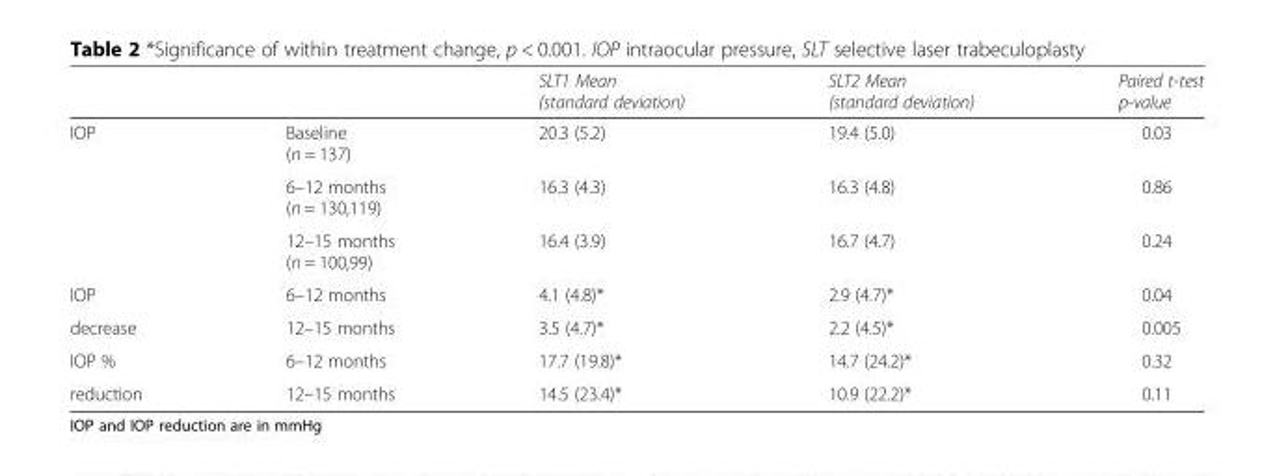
<table><thead><tr><td></td><td></td><td>SLT1 Mean (standard deviation)</td><td>SLT2 Mean (standard deviation)</td><td>Paired t-test p-value</td></tr></thead><tbody><tr><td rowspan="3">IOP</td><td>Baseline (n = 137)</td><td>20.3 (5.2)</td><td>19.4 (5.0)</td><td>0.03</td></tr><tr><td>6–12 months (n = 130,119)</td><td>16.3 (4.3)</td><td>16.3 (4.8)</td><td>0.86</td></tr><tr><td>12–15 months (n = 100,99)</td><td>16.4 (3.9)</td><td>16.7 (4.7)</td><td>0.24</td></tr><tr><td>IOP</td><td>6–12 months</td><td>4.1 (4.8)*</td><td>2.9 (4.7)*</td><td>0.04</td></tr><tr><td>decrease</td><td>12–15 months</td><td>3.5 (4.7)*</td><td>2.2 (4.5)*</td><td>0.005</td></tr><tr><td>IOP %</td><td>6–12 months</td><td>17.7 (19.8)*</td><td>14.7 (24.2)*</td><td>0.32</td></tr><tr><td>reduction</td><td>12–15 months</td><td>14.5 (23.4)*</td><td>10.9 (22.2)*</td><td>0.11</td></tr></tbody></table>